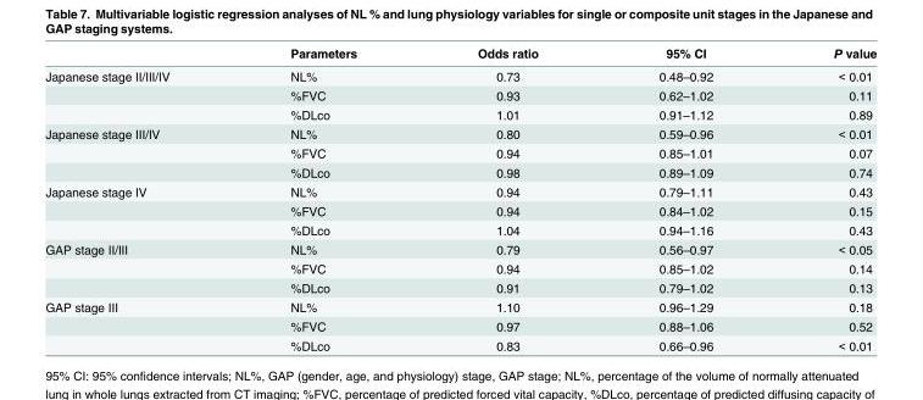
<table><thead><tr><td></td><td>Parameters</td><td>Odds ratio</td><td>95% CI</td><td>P value</td></tr></thead><tbody><tr><td rowspan="3">Japanese stage II/III/IV</td><td>NL%</td><td>0.73</td><td>0.48–0.92</td><td>&lt; 0.01</td></tr><tr><td>%FVC</td><td>0.93</td><td>0.62–1.02</td><td>0.11</td></tr><tr><td>%DLco</td><td>1.01</td><td>0.91–1.12</td><td>0.89</td></tr><tr><td rowspan="3">Japanese stage III/IV</td><td>NL%</td><td>0.80</td><td>0.59–0.96</td><td>&lt; 0.01</td></tr><tr><td>%FVC</td><td>0.94</td><td>0.85–1.01</td><td>0.07</td></tr><tr><td>%DLco</td><td>0.98</td><td>0.89–1.09</td><td>0.74</td></tr><tr><td rowspan="3">Japanese stage IV</td><td>NL%</td><td>0.94</td><td>0.79–1.11</td><td>0.43</td></tr><tr><td>%FVC</td><td>0.94</td><td>0.84–1.02</td><td>0.15</td></tr><tr><td>%DLco</td><td>1.04</td><td>0.94–1.16</td><td>0.43</td></tr><tr><td rowspan="3">GAP stage II/III</td><td>NL%</td><td>0.79</td><td>0.56–0.97</td><td>&lt; 0.05</td></tr><tr><td>%FVC</td><td>0.94</td><td>0.85–1.02</td><td>0.14</td></tr><tr><td>%DLco</td><td>0.91</td><td>0.79–1.02</td><td>0.13</td></tr><tr><td rowspan="3">GAP stage III</td><td>NL%</td><td>1.10</td><td>0.96–1.29</td><td>0.18</td></tr><tr><td>%FVC</td><td>0.97</td><td>0.88–1.06</td><td>0.52</td></tr><tr><td>%DLco</td><td>0.83</td><td>0.66–0.96</td><td>&lt; 0.01</td></tr></tbody></table>